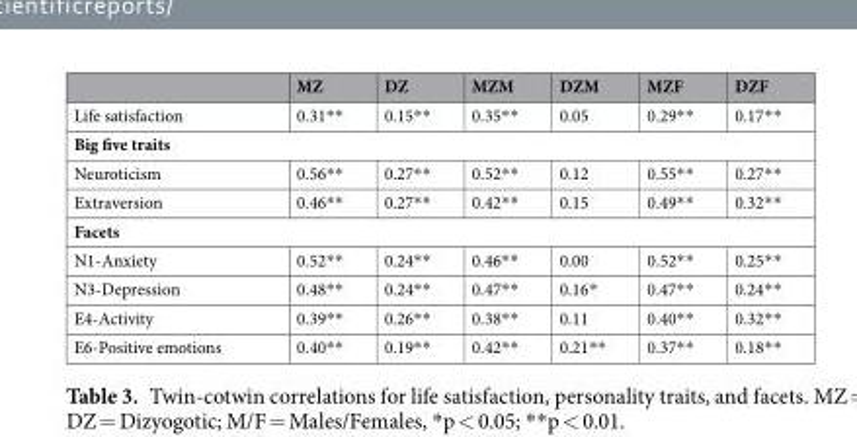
<table><thead><tr><td></td><td>MZ</td><td>DZ</td><td>MZM</td><td>DZM</td><td>MZF</td><td>DZF</td></tr></thead><tbody><tr><td>Life satisfaction</td><td>0.31**</td><td>0.15**</td><td>0.35**</td><td>0.05</td><td>0.29**</td><td>0.17**</td></tr><tr><td colspan="7">Big five traits</td></tr><tr><td>Neuroticism</td><td>0.56**</td><td>0.27**</td><td>0.52**</td><td>0.12</td><td>0.55**</td><td>0.27**</td></tr><tr><td>Extraversion</td><td>0.46**</td><td>0.27**</td><td>0.42**</td><td>0.15</td><td>0.49**</td><td>0.32**</td></tr><tr><td colspan="7">Facets</td></tr><tr><td>N1-Anxiety</td><td>0.52**</td><td>0.24**</td><td>0.46**</td><td>0.00</td><td>0.52**</td><td>0.25**</td></tr><tr><td>N3-Depression</td><td>0.48**</td><td>0.24**</td><td>0.47**</td><td>0.16*</td><td>0.47**</td><td>0.24**</td></tr><tr><td>E4-Activity</td><td>0.39**</td><td>0.26**</td><td>0.38**</td><td>0.11</td><td>0.40**</td><td>0.32**</td></tr><tr><td>E6-Positive emotions</td><td>0.40**</td><td>0.19**</td><td>0.42**</td><td>0.21**</td><td>0.37**</td><td>0.18**</td></tr></tbody></table>